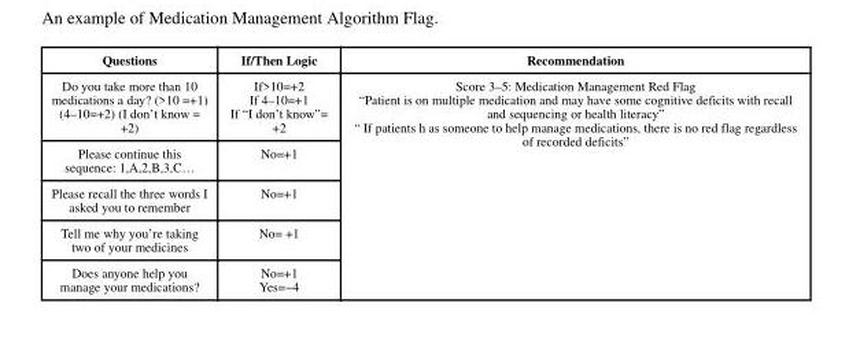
<table><thead><tr><td>Questions</td><td>If/Then Logic</td><td>Recommendation</td></tr></thead><tbody><tr><td>Do you take more than 10 medications a day? (&gt;10 =+1) (4–10=+2) (I don’t know = +2)</td><td>If&gt;10=+2 If 4–10=+1 If “I don’t know”= +2</td><td rowspan="5">Score 3–5: Medication Management Red Flag “Patient is on multiple medication and may have some cognitive deficits with recall and sequencing or health literacy” “ If patients h as someone to help manage medications, there is no red flag regardless of recorded deficits”</td></tr><tr><td>Please continue this sequence: 1,A,2,B,3,C…</td><td>No=+1</td></tr><tr><td>Please recall the three words I asked you to remember</td><td>No=+1</td></tr><tr><td>Tell me why you’re taking two of your medicines</td><td>No= +1</td></tr><tr><td>Does anyone help you manage your medications?</td><td>No=+1 Yes=−4</td></tr></tbody></table>